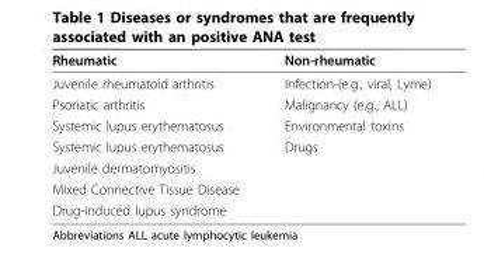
<table><thead><tr><td>Rheumatic</td><td>Non-rheumatic</td></tr></thead><tbody><tr><td>Juvenile rheumatoid arthritis</td><td>Infection-(e.g., viral, Lyme)</td></tr><tr><td>Psoriatic arthritis</td><td>Malignancy (e.g., ALL)</td></tr><tr><td>Systemic lupus erythematosus</td><td>Environmental toxins</td></tr><tr><td>Systemic lupus erythematosus</td><td>Drugs</td></tr><tr><td colspan="2">Juvenile dermatomyositis</td></tr><tr><td colspan="2">Mixed Connective Tissue Disease</td></tr><tr><td>Drug-induced lupus syndrome</td><td></td></tr></tbody></table>